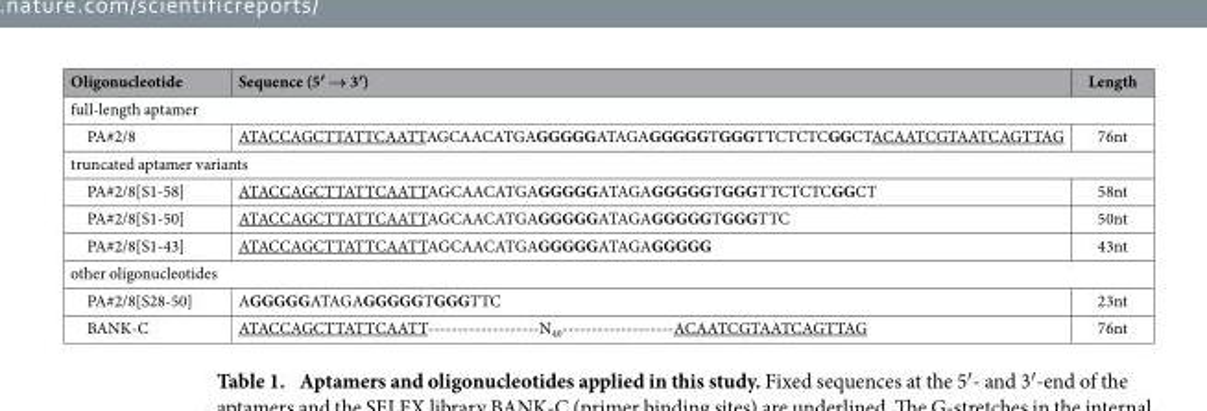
<table><thead><tr><td>Oligonucleotide</td><td>Sequence (5′ → 3′)</td><td>Length</td></tr></thead><tbody><tr><td colspan="3">full-length aptamer</td></tr><tr><td>PA#2/8</td><td>ATACCAGCTTATTCAATTAGCAACATGAGGGGGATAGAGGGGGTGGGTTCTCTCGGCTACAATCGTAATCAGTTAG</td><td>76nt</td></tr><tr><td colspan="3">truncated aptamer variants</td></tr><tr><td>PA#2/8[S1-58]</td><td>ATACCAGCTTATTCAATTAGCAACATGAGGGGGATAGAGGGGGTGGGTTCTCTCGGCT</td><td>58nt</td></tr><tr><td>PA#2/8[S1-50]</td><td>ATACCAGCTTATTCAATTAGCAACATGAGGGGGATAGAGGGGGTGGGTTC</td><td>50nt</td></tr><tr><td>PA#2/8[S1-43]</td><td>ATACCAGCTTATTCAATTAGCAACATGAGGGGGATAGAGGGGG</td><td>43nt</td></tr><tr><td colspan="3">other oligonucleotides</td></tr><tr><td>PA#2/8[S28-50]</td><td>AGGGGGATAGAGGGGGTGGGTTC</td><td>23nt</td></tr><tr><td>BANK-C</td><td>ATACCAGCTTATTCAATT-------------------N<sub>40</sub>-------------------ACAATCGTAATCAGTTAG</td><td>76nt</td></tr></tbody></table>